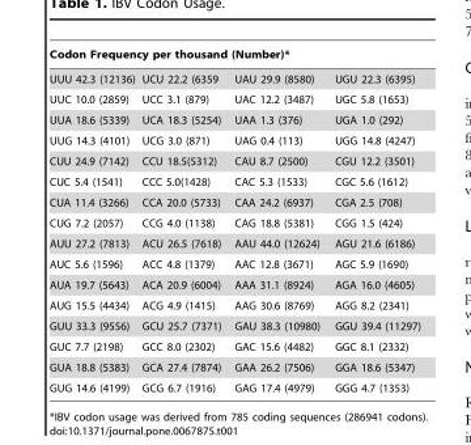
<table><thead><tr><td colspan="4">Codon Frequency per thousand (Number)*</td></tr><tr><td>UUU 42.3 (12136)</td><td>UCU 22.2 (6359</td><td>UAU 29.9 (8580)</td><td>UGU 22.3 (6395)</td></tr></thead><tbody><tr><td>UUC 10.0 (2859)</td><td>UCC 3.1 (879)</td><td>UAC 12.2 (3487)</td><td>UGC 5.8 (1653)</td></tr><tr><td>UUA 18.6 (5339)</td><td>UCA 18.3 (5254)</td><td>UAA 1.3 (376)</td><td>UGA 1.0 (292)</td></tr><tr><td>UUG 14.3 (4101)</td><td>UCG 3.0 (871)</td><td>UAG 0.4 (113)</td><td>UGG 14.8 (4247)</td></tr><tr><td>CUU 24.9 (7142)</td><td>CCU 18.5(5312)</td><td>CAU 8.7 (2500)</td><td>CGU 12.2 (3501)</td></tr><tr><td>CUC 5.4 (1541)</td><td>CCC 5.0(1428)</td><td>CAC 5.3 (1533)</td><td>CGC 5.6 (1612)</td></tr><tr><td>CUA 11.4 (3266)</td><td>CCA 20.0 (5733)</td><td>CAA 24.2 (6937)</td><td>CGA 2.5 (708)</td></tr><tr><td>CUG 7.2 (2057)</td><td>CCG 4.0 (1138)</td><td>CAG 18.8 (5381)</td><td>CGG 1.5 (424)</td></tr><tr><td>AUU 27.2 (7813)</td><td>ACU 26.5 (7618)</td><td>AAU 44.0 (12624)</td><td>AGU 21.6 (6186)</td></tr><tr><td>AUC 5.6 (1596)</td><td>ACC 4.8 (1379)</td><td>AAC 12.8 (3671)</td><td>AGC 5.9 (1690)</td></tr><tr><td>AUA 19.7 (5643)</td><td>ACA 20.9 (6004)</td><td>AAA 31.1 (8924)</td><td>AGA 16.0 (4605)</td></tr><tr><td>AUG 15.5 (4434)</td><td>ACG 4.9 (1415)</td><td>AAG 30.6 (8769)</td><td>AGG 8.2 (2341)</td></tr><tr><td>GUU 33.3 (9556)</td><td>GCU 25.7 (7371)</td><td>GAU 38.3 (10980)</td><td>GGU 39.4 (11297)</td></tr><tr><td>GUC 7.7 (2198)</td><td>GCC 8.0 (2302)</td><td>GAC 15.6 (4482)</td><td>GGC 8.1 (2332)</td></tr><tr><td>GUA 18.8 (5383)</td><td>GCA 27.4 (7874)</td><td>GAA 26.2 (7506)</td><td>GGA 18.6 (5347)</td></tr><tr><td>GUG 14.6 (4199)</td><td>GCG 6.7 (1916)</td><td>GAG 17.4 (4979)</td><td>GGG 4.7 (1353)</td></tr></tbody></table>